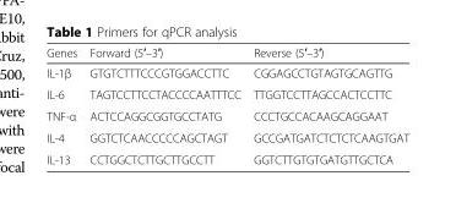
<table><thead><tr><td>Genes</td><td>Forward (5′–3′)</td><td>Reverse (5′–3′)</td></tr></thead><tbody><tr><td>IL-1β</td><td>GTGTCTTTCCCGTGGACCTTC</td><td>CGGAGCCTGTAGTGCAGTTG</td></tr><tr><td>IL-6</td><td>TAGTCCTTCCTACCCCAATTTCC</td><td>TTGGTCCTTAGCCACTCCTTC</td></tr><tr><td>TNF-α</td><td>ACTCCAGGCGGTGCCTATG</td><td>CCCTGCCACAAGCAGGAAT</td></tr><tr><td>IL-4</td><td>GGTCTCAACCCCCAGCTAGT</td><td>GCCGATGATCTCTCTCAAGTGAT</td></tr><tr><td>IL-13</td><td>CCTGGCTCTTGCTTGCCTT</td><td>GGTCTTGTGTGATGTTGCTCA</td></tr></tbody></table>